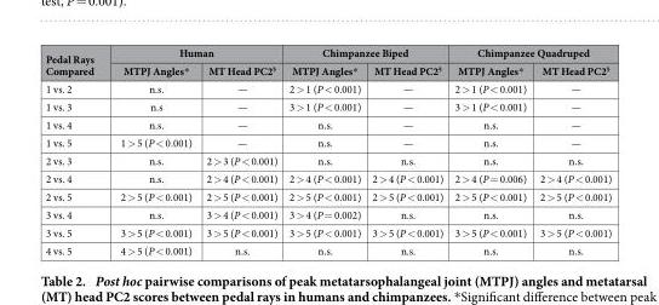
<table><thead><tr><td rowspan="2">Pedal Rays Compared</td><td colspan="2">Human</td><td colspan="2">Chimpanzee Biped</td><td colspan="2">Chimpanzee Quadruped</td></tr><tr><td>MTPJ Angles*</td><td>MT Head PC2§</td><td>MTPJ Angles*</td><td>MT Head PC2§</td><td>MTPJ Angles*</td><td>MT Head PC2§</td></tr></thead><tbody><tr><td>1 vs. 2</td><td>n.s.</td><td>—</td><td>2 &gt; 1 (P &lt; 0.001)</td><td>—</td><td>2 &gt; 1 (P &lt; 0.001)</td><td>—</td></tr><tr><td>1 vs. 3</td><td>n.s</td><td>—</td><td>3 &gt; 1 (P &lt; 0.001)</td><td>—</td><td>3 &gt; 1 (P &lt; 0.001)</td><td>—</td></tr><tr><td>1 vs. 4</td><td>n.s.</td><td>—</td><td>n.s.</td><td>—</td><td>n.s.</td><td>—</td></tr><tr><td>1 vs. 5</td><td>1 &gt; 5 (P &lt; 0.001)</td><td>—</td><td>n.s.</td><td>—</td><td>n.s.</td><td>—</td></tr><tr><td>2 vs. 3</td><td>n.s.</td><td>2 &gt; 3 (P &lt; 0.001)</td><td>n.s.</td><td>n.s.</td><td>n.s.</td><td>n.s.</td></tr><tr><td>2 vs. 4</td><td>n.s.</td><td>2 &gt; 4 (P &lt; 0.001)</td><td>2 &gt; 4 (P &lt; 0.001)</td><td>2 &gt; 4 (P &lt; 0.001)</td><td>2 &gt; 4 (P = 0.006)</td><td>2 &gt; 4 (P &lt; 0.001)</td></tr><tr><td>2 vs. 5</td><td>2 &gt; 5 (P &lt; 0.001)</td><td>2 &gt; 5 (P &lt; 0.001)</td><td>2 &gt; 5 (P &lt; 0.001)</td><td>2 &gt; 5 (P &lt; 0.001)</td><td>2 &gt; 5 (P &lt; 0.001)</td><td>2 &gt; 5 (P &lt; 0.001)</td></tr><tr><td>3 vs. 4</td><td>n.s.</td><td>3 &gt; 4 (P &lt; 0.001)</td><td>3 &gt; 4 (P = 0.002)</td><td>n.s.</td><td>n.s.</td><td>n.s.</td></tr><tr><td>3 vs. 5</td><td>3 &gt; 5 (P &lt; 0.001)</td><td>3 &gt; 5 (P &lt; 0.001)</td><td>3 &gt; 5 (P &lt; 0.001)</td><td>3 &gt; 5 (P &lt; 0.001)</td><td>3 &gt; 5 (P &lt; 0.001)</td><td>3 &gt; 5 (P &lt; 0.001)</td></tr><tr><td>4 vs. 5</td><td>4 &gt; 5 (P &lt; 0.001)</td><td>n.s.</td><td>n.s.</td><td>n.s.</td><td>n.s.</td><td>n.s.</td></tr></tbody></table>